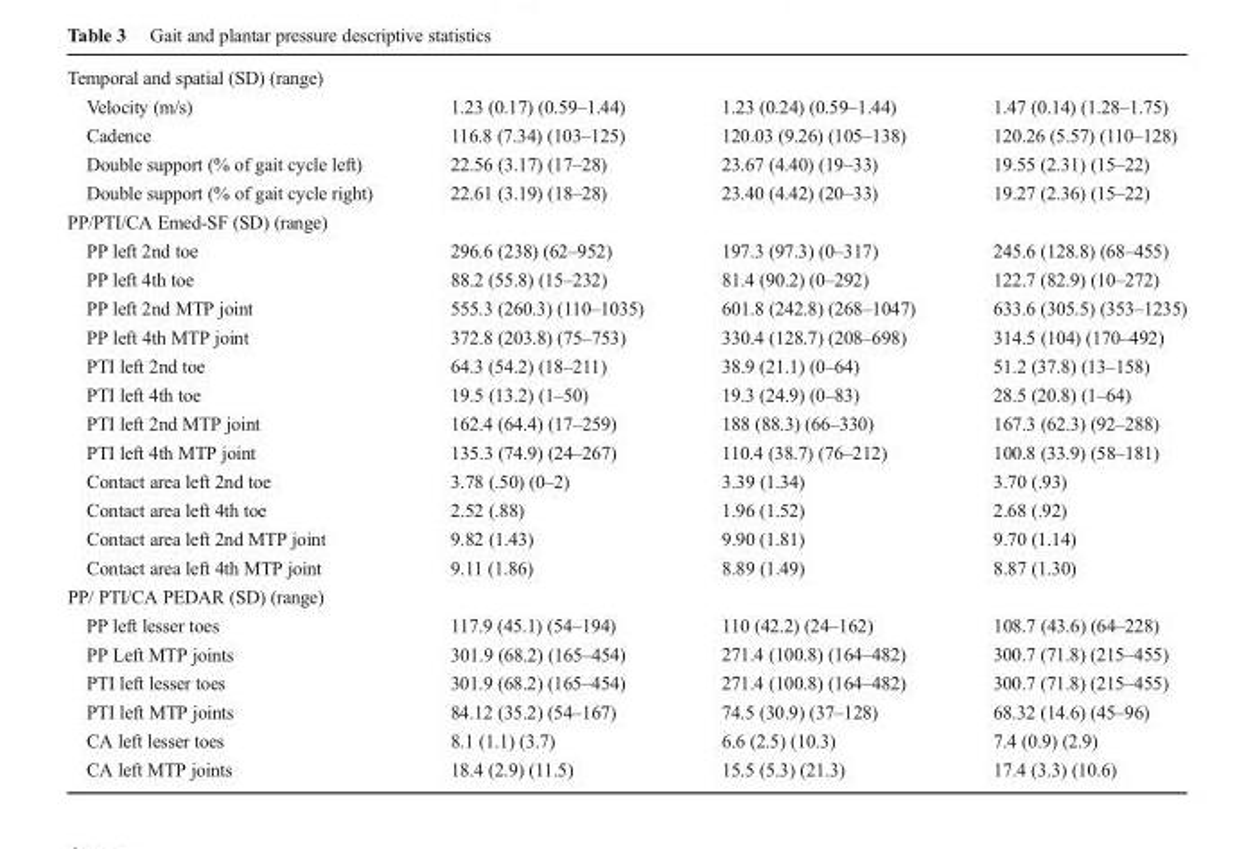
<table><tbody><tr><td colspan="4">Temporal and spatial (SD) (range)</td></tr><tr><td>Velocity (m/s)</td><td>1.23 (0.17) (0.59–1.44)</td><td>1.23 (0.24) (0.59–1.44)</td><td>1.47 (0.14) (1.28–1.75)</td></tr><tr><td>Cadence</td><td>116.8 (7.34) (103–125)</td><td>120.03 (9.26) (105–138)</td><td>120.26 (5.57) (110–128)</td></tr><tr><td>Double support (% of gait cycle left)</td><td>22.56 (3.17) (17–28)</td><td>23.67 (4.40) (19–33)</td><td>19.55 (2.31) (15–22)</td></tr><tr><td>Double support (% of gait cycle right)</td><td>22.61 (3.19) (18–28)</td><td>23.40 (4.42) (20–33)</td><td>19.27 (2.36) (15–22)</td></tr><tr><td colspan="4">PP/PTI/CA Emed-SF (SD) (range)</td></tr><tr><td>PP left 2nd toe</td><td>296.6 (238) (62–952)</td><td>197.3 (97.3) (0–317)</td><td>245.6 (128.8) (68–455)</td></tr><tr><td>PP left 4th toe</td><td>88.2 (55.8) (15–232)</td><td>81.4 (90.2) (0–292)</td><td>122.7 (82.9) (10–272)</td></tr><tr><td>PP left 2nd MTP joint</td><td>555.3 (260.3) (110–1035)</td><td>601.8 (242.8) (268–1047)</td><td>633.6 (305.5) (353–1235)</td></tr><tr><td>PP left 4th MTP joint</td><td>372.8 (203.8) (75–753)</td><td>330.4 (128.7) (208–698)</td><td>314.5 (104) (170–492)</td></tr><tr><td>PTI left 2nd toe</td><td>64.3 (54.2) (18–211)</td><td>38.9 (21.1) (0–64)</td><td>51.2 (37.8) (13–158)</td></tr><tr><td>PTI left 4th toe</td><td>19.5 (13.2) (1–50)</td><td>19.3 (24.9) (0–83)</td><td>28.5 (20.8) (1–64)</td></tr><tr><td>PTI left 2nd MTP joint</td><td>162.4 (64.4) (17–259)</td><td>188 (88.3) (66–330)</td><td>167.3 (62.3) (92–288)</td></tr><tr><td>PTI left 4th MTP joint</td><td>135.3 (74.9) (24–267)</td><td>110.4 (38.7) (76–212)</td><td>100.8 (33.9) (58–181)</td></tr><tr><td>Contact area left 2nd toe</td><td>3.78 (.50) (0–2)</td><td>3.39 (1.34)</td><td>3.70 (.93)</td></tr><tr><td>Contact area left 4th toe</td><td>2.52 (.88)</td><td>1.96 (1.52)</td><td>2.68 (.92)</td></tr><tr><td>Contact area left 2nd MTP joint</td><td>9.82 (1.43)</td><td>9.90 (1.81)</td><td>9.70 (1.14)</td></tr><tr><td>Contact area left 4th MTP joint</td><td>9.11 (1.86)</td><td>8.89 (1.49)</td><td>8.87 (1.30)</td></tr><tr><td colspan="4">PP/ PTI/CA PEDAR (SD) (range)</td></tr><tr><td>PP left lesser toes</td><td>117.9 (45.1) (54–194)</td><td>110 (42.2) (24–162)</td><td>108.7 (43.6) (64–228)</td></tr><tr><td>PP Left MTP joints</td><td>301.9 (68.2) (165–454)</td><td>271.4 (100.8) (164–482)</td><td>300.7 (71.8) (215–455)</td></tr><tr><td>PTI left lesser toes</td><td>301.9 (68.2) (165–454)</td><td>271.4 (100.8) (164–482)</td><td>300.7 (71.8) (215–455)</td></tr><tr><td>PTI left MTP joints</td><td>84.12 (35.2) (54–167)</td><td>74.5 (30.9) (37–128)</td><td>68.32 (14.6) (45–96)</td></tr><tr><td>CA left lesser toes</td><td>8.1 (1.1) (3.7)</td><td>6.6 (2.5) (10.3)</td><td>7.4 (0.9) (2.9)</td></tr><tr><td>CA left MTP joints</td><td>18.4 (2.9) (11.5)</td><td>15.5 (5.3) (21.3)</td><td>17.4 (3.3) (10.6)</td></tr></tbody></table>